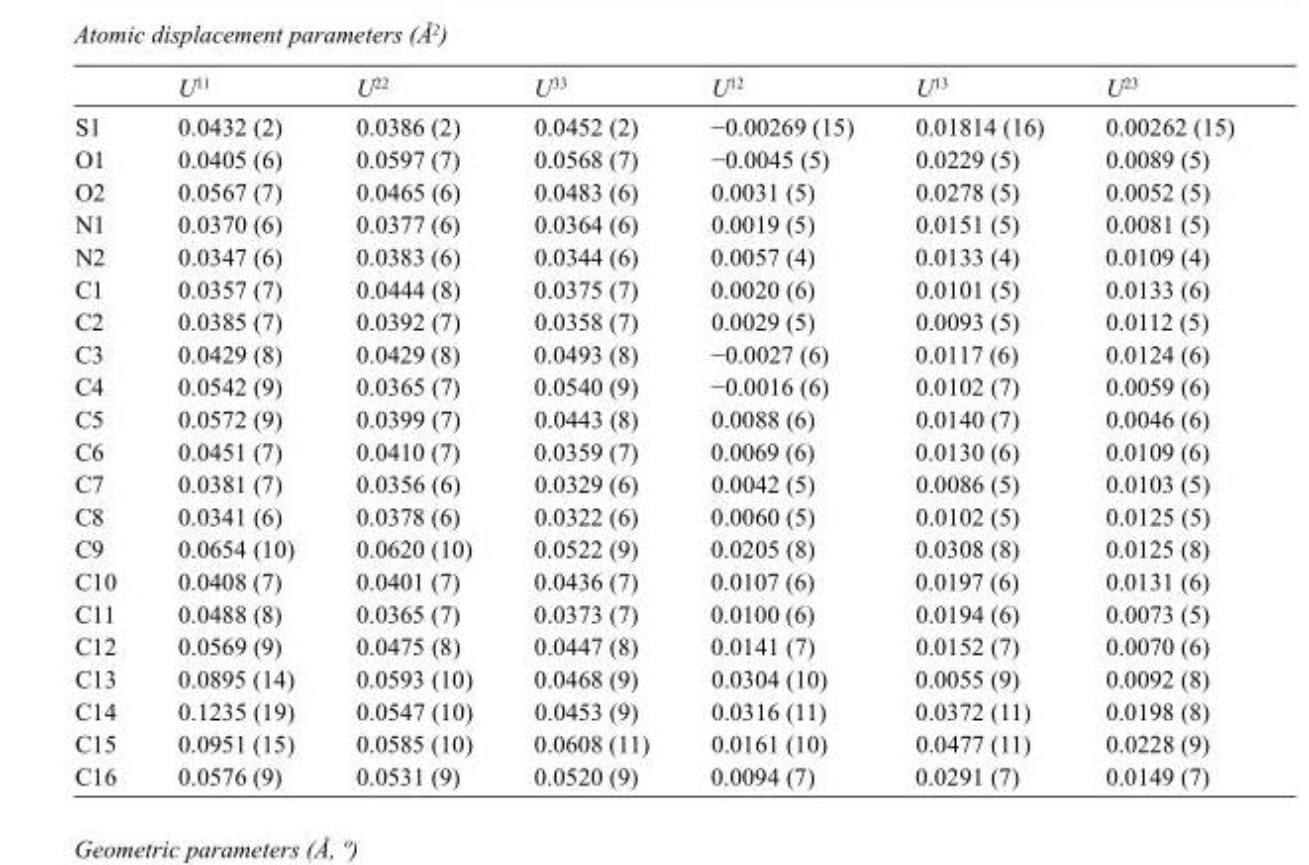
<table><thead><tr><td></td><td>U<sup>11</sup></td><td>U<sup>22</sup></td><td>U<sup>33</sup></td><td>U<sup>12</sup></td><td>U<sup>13</sup></td><td>U<sup>23</sup></td></tr></thead><tbody><tr><td>S1</td><td>0.0432 (2)</td><td>0.0386 (2)</td><td>0.0452 (2)</td><td>−0.00269 (15)</td><td>0.01814 (16)</td><td>0.00262 (15)</td></tr><tr><td>O1</td><td>0.0405 (6)</td><td>0.0597 (7)</td><td>0.0568 (7)</td><td>−0.0045 (5)</td><td>0.0229 (5)</td><td>0.0089 (5)</td></tr><tr><td>O2</td><td>0.0567 (7)</td><td>0.0465 (6)</td><td>0.0483 (6)</td><td>0.0031 (5)</td><td>0.0278 (5)</td><td>0.0052 (5)</td></tr><tr><td>N1</td><td>0.0370 (6)</td><td>0.0377 (6)</td><td>0.0364 (6)</td><td>0.0019 (5)</td><td>0.0151 (5)</td><td>0.0081 (5)</td></tr><tr><td>N2</td><td>0.0347 (6)</td><td>0.0383 (6)</td><td>0.0344 (6)</td><td>0.0057 (4)</td><td>0.0133 (4)</td><td>0.0109 (4)</td></tr><tr><td>C1</td><td>0.0357 (7)</td><td>0.0444 (8)</td><td>0.0375 (7)</td><td>0.0020 (6)</td><td>0.0101 (5)</td><td>0.0133 (6)</td></tr><tr><td>C2</td><td>0.0385 (7)</td><td>0.0392 (7)</td><td>0.0358 (7)</td><td>0.0029 (5)</td><td>0.0093 (5)</td><td>0.0112 (5)</td></tr><tr><td>C3</td><td>0.0429 (8)</td><td>0.0429 (8)</td><td>0.0493 (8)</td><td>−0.0027 (6)</td><td>0.0117 (6)</td><td>0.0124 (6)</td></tr><tr><td>C4</td><td>0.0542 (9)</td><td>0.0365 (7)</td><td>0.0540 (9)</td><td>−0.0016 (6)</td><td>0.0102 (7)</td><td>0.0059 (6)</td></tr><tr><td>C5</td><td>0.0572 (9)</td><td>0.0399 (7)</td><td>0.0443 (8)</td><td>0.0088 (6)</td><td>0.0140 (7)</td><td>0.0046 (6)</td></tr><tr><td>C6</td><td>0.0451 (7)</td><td>0.0410 (7)</td><td>0.0359 (7)</td><td>0.0069 (6)</td><td>0.0130 (6)</td><td>0.0109 (6)</td></tr><tr><td>C7</td><td>0.0381 (7)</td><td>0.0356 (6)</td><td>0.0329 (6)</td><td>0.0042 (5)</td><td>0.0086 (5)</td><td>0.0103 (5)</td></tr><tr><td>C8</td><td>0.0341 (6)</td><td>0.0378 (6)</td><td>0.0322 (6)</td><td>0.0060 (5)</td><td>0.0102 (5)</td><td>0.0125 (5)</td></tr><tr><td>C9</td><td>0.0654 (10)</td><td>0.0620 (10)</td><td>0.0522 (9)</td><td>0.0205 (8)</td><td>0.0308 (8)</td><td>0.0125 (8)</td></tr><tr><td>C10</td><td>0.0408 (7)</td><td>0.0401 (7)</td><td>0.0436 (7)</td><td>0.0107 (6)</td><td>0.0197 (6)</td><td>0.0131 (6)</td></tr><tr><td>C11</td><td>0.0488 (8)</td><td>0.0365 (7)</td><td>0.0373 (7)</td><td>0.0100 (6)</td><td>0.0194 (6)</td><td>0.0073 (5)</td></tr><tr><td>C12</td><td>0.0569 (9)</td><td>0.0475 (8)</td><td>0.0447 (8)</td><td>0.0141 (7)</td><td>0.0152 (7)</td><td>0.0070 (6)</td></tr><tr><td>C13</td><td>0.0895 (14)</td><td>0.0593 (10)</td><td>0.0468 (9)</td><td>0.0304 (10)</td><td>0.0055 (9)</td><td>0.0092 (8)</td></tr><tr><td>C14</td><td>0.1235 (19)</td><td>0.0547 (10)</td><td>0.0453 (9)</td><td>0.0316 (11)</td><td>0.0372 (11)</td><td>0.0198 (8)</td></tr><tr><td>C15</td><td>0.0951 (15)</td><td>0.0585 (10)</td><td>0.0608 (11)</td><td>0.0161 (10)</td><td>0.0477 (11)</td><td>0.0228 (9)</td></tr><tr><td>C16</td><td>0.0576 (9)</td><td>0.0531 (9)</td><td>0.0520 (9)</td><td>0.0094 (7)</td><td>0.0291 (7)</td><td>0.0149 (7)</td></tr></tbody></table>